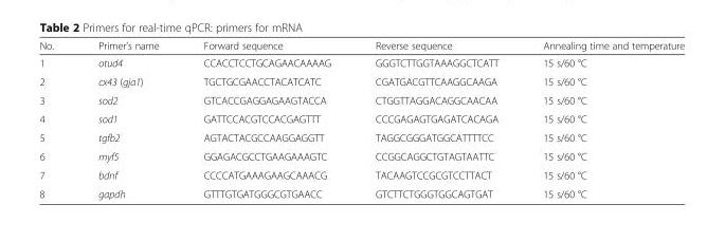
<table><thead><tr><td>No.</td><td>Primer’s name</td><td>Forward sequence</td><td>Reverse sequence</td><td>Annealing time and temperature</td></tr></thead><tbody><tr><td>1</td><td>otud4</td><td>CCACCTCCTGCAGAACAAAAG</td><td>GGGTCTTGGTAAAGGCTCATT</td><td>15 s/60 °C</td></tr><tr><td>2</td><td>cx43 (gja1)</td><td>TGCTGCGAACCTACATCATC</td><td>CGATGACGTTCAAGGCAAGA</td><td>15 s/60 °C</td></tr><tr><td>3</td><td>sod2</td><td>GTCACCGAGGAGAAGTACCA</td><td>CTGGTTAGGACAGGCAACAA</td><td>15 s/60 °C</td></tr><tr><td>4</td><td>sod1</td><td>GATTCCACGTCCACGAGTTT</td><td>CCCGAGAGTGAGATCACAGA</td><td>15 s/60 °C</td></tr><tr><td>5</td><td>tgfb2</td><td>AGTACTACGCCAAGGAGGTT</td><td>TAGGCGGGATGGCATTTTCC</td><td>15 s/60 °C</td></tr><tr><td>6</td><td>myf5</td><td>GGAGACGCCTGAAGAAAGTC</td><td>CCGGCAGGCTGTAGTAATTC</td><td>15 s/60 °C</td></tr><tr><td>7</td><td>bdnf</td><td>CCCCATGAAAGAAGCAAACG</td><td>TACAAGTCCGCGTCCTTACT</td><td>15 s/60 °C</td></tr><tr><td>8</td><td>gapdh</td><td>GTTTGTGATGGGCGTGAACC</td><td>GTCTTCTGGGTGGCAGTGAT</td><td>15 s/60 °C</td></tr></tbody></table>